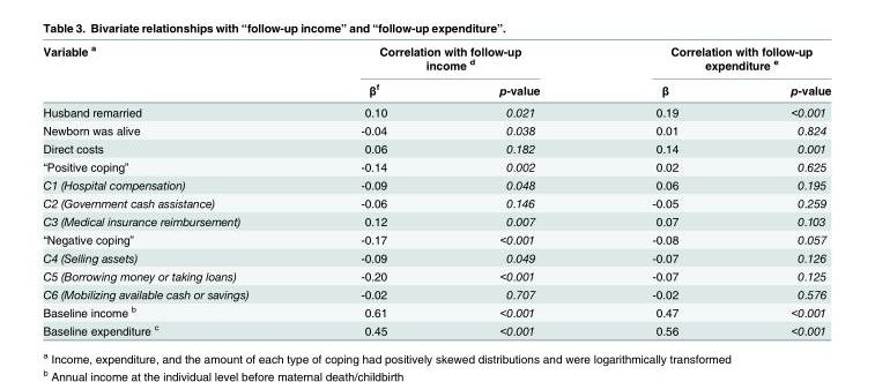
<table><thead><tr><td rowspan="2">Variable <sup>a</sup></td><td colspan="2">Correlation with follow-up income <sup>d</sup></td><td colspan="2">Correlation with follow-up expenditure <sup>e</sup></td></tr><tr><td>β<sup>f</sup></td><td>p-value</td><td>β</td><td>p-value</td></tr></thead><tbody><tr><td>Husband remarried</td><td>0.10</td><td>0.021</td><td>0.19</td><td>&lt;0.001</td></tr><tr><td>Newborn was alive</td><td>-0.04</td><td>0.038</td><td>0.01</td><td>0.824</td></tr><tr><td>Direct costs</td><td>0.06</td><td>0.182</td><td>0.14</td><td>0.001</td></tr><tr><td>“Positive coping”</td><td>-0.14</td><td>0.002</td><td>0.02</td><td>0.625</td></tr><tr><td>C1 (Hospital compensation)</td><td>-0.09</td><td>0.048</td><td>0.06</td><td>0.195</td></tr><tr><td>C2 (Government cash assistance)</td><td>-0.06</td><td>0.146</td><td>-0.05</td><td>0.259</td></tr><tr><td>C3 (Medical insurance reimbursement)</td><td>0.12</td><td>0.007</td><td>0.07</td><td>0.103</td></tr><tr><td>“Negative coping”</td><td>-0.17</td><td>&lt;0.001</td><td>-0.08</td><td>0.057</td></tr><tr><td>C4 (Selling assets)</td><td>-0.09</td><td>0.049</td><td>-0.07</td><td>0.126</td></tr><tr><td>C5 (Borrowing money or taking loans)</td><td>-0.20</td><td>&lt;0.001</td><td>-0.07</td><td>0.125</td></tr><tr><td>C6 (Mobilizing available cash or savings)</td><td>-0.02</td><td>0.707</td><td>-0.02</td><td>0.576</td></tr><tr><td>Baseline income <sup>b</sup></td><td>0.61</td><td>&lt;0.001</td><td>0.47</td><td>&lt;0.001</td></tr><tr><td>Baseline expenditure <sup>c</sup></td><td>0.45</td><td>&lt;0.001</td><td>0.56</td><td>&lt;0.001</td></tr></tbody></table>